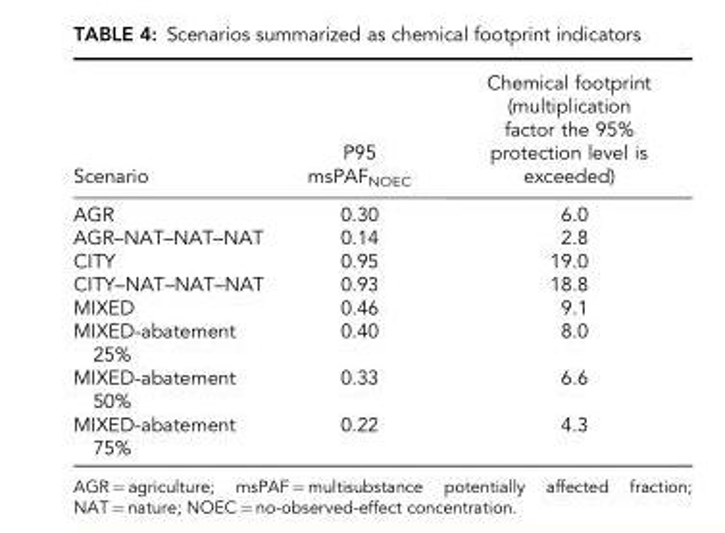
<table><thead><tr><td>Scenario</td><td>P95 msPAF<sub>NOEC</sub></td><td>Chemical footprint (multiplication factor the 95% protection level is exceeded)</td></tr></thead><tbody><tr><td>AGR</td><td>0.30</td><td>6.0</td></tr><tr><td>AGR–NAT–NAT–NAT</td><td>0.14</td><td>2.8</td></tr><tr><td>CITY</td><td>0.95</td><td>19.0</td></tr><tr><td>CITY–NAT–NAT–NAT</td><td>0.93</td><td>18.8</td></tr><tr><td>MIXED</td><td>0.46</td><td>9.1</td></tr><tr><td>MIXED-abatement 25%</td><td>0.40</td><td>8.0</td></tr><tr><td>MIXED-abatement 50%</td><td>0.33</td><td>6.6</td></tr><tr><td>MIXED-abatement 75%</td><td>0.22</td><td>4.3</td></tr></tbody></table>